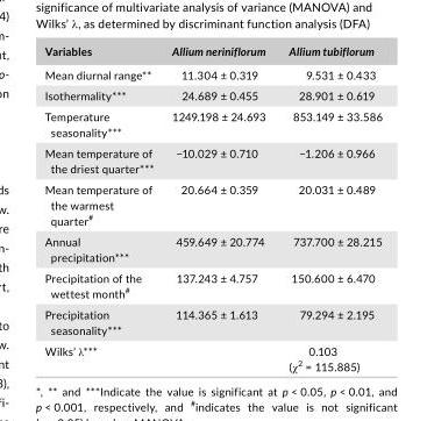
<table><thead><tr><td>Variables</td><td>Allium neriniflorum</td><td>Allium tubiflorum</td></tr></thead><tbody><tr><td>Mean diurnal range**</td><td>11.304 ± 0.319</td><td>9.531 ± 0.433</td></tr><tr><td>Isothermality***</td><td>24.689 ± 0.455</td><td>28.901 ± 0.619</td></tr><tr><td>Temperature seasonality***</td><td>1249.198 ± 24.693</td><td>853.149 ± 33.586</td></tr><tr><td>Mean temperature of the driest quarter***</td><td>−10.029 ± 0.710</td><td>−1.206 ± 0.966</td></tr><tr><td>Mean temperature of the warmest quarter#</td><td>20.664 ± 0.359</td><td>20.031 ± 0.489</td></tr><tr><td>Annual precipitation***</td><td>459.649 ± 20.774</td><td>737.700 ± 28.215</td></tr><tr><td>Precipitation of the wettest month#</td><td>137.243 ± 4.757</td><td>150.600 ± 6.470</td></tr><tr><td>Precipitation seasonality***</td><td>114.365 ± 1.613</td><td>79.294 ± 2.195</td></tr><tr><td>Wilks’ λ***</td><td></td><td>0.103 (χ<sup>2</sup> = 115.885)</td></tr></tbody></table>